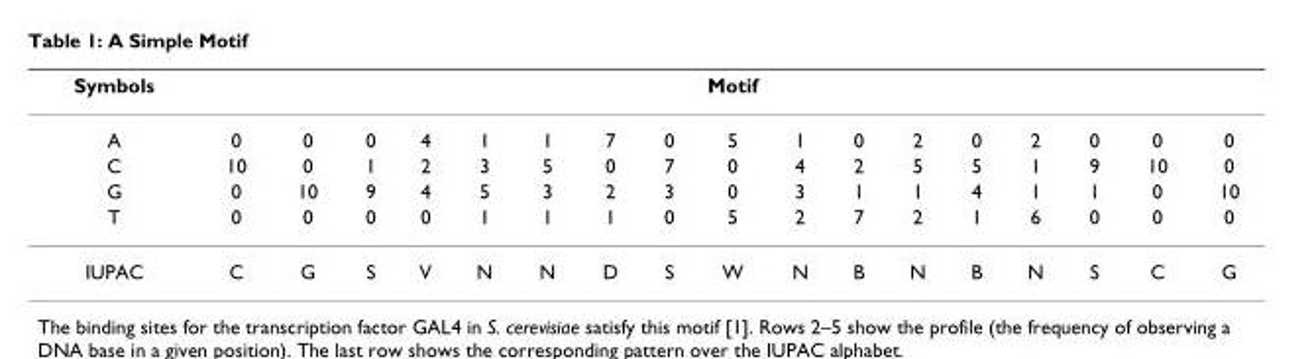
<table><thead><tr><td rowspan="2">Symbols A</td><td colspan="17">Motif</td></tr><tr><td>0</td><td>0</td><td>0</td><td>4</td><td>1</td><td>1</td><td>7</td><td>0</td><td>5</td><td>1</td><td>0</td><td>2</td><td>0</td><td>2</td><td>0</td><td>0</td><td>0</td></tr></thead><tbody><tr><td>C</td><td>10</td><td>0</td><td>1</td><td>2</td><td>3</td><td>5</td><td>0</td><td>7</td><td>0</td><td>4</td><td>2</td><td>5</td><td>5</td><td>1</td><td>9</td><td>10</td><td>0</td></tr><tr><td>G</td><td>0</td><td>10</td><td>9</td><td>4</td><td>5</td><td>3</td><td>2</td><td>3</td><td>0</td><td>3</td><td>1</td><td>1</td><td>4</td><td>1</td><td>1</td><td>0</td><td>10</td></tr><tr><td>T</td><td>0</td><td>0</td><td>0</td><td>0</td><td>1</td><td>1</td><td>1</td><td>0</td><td>5</td><td>2</td><td>7</td><td>2</td><td>1</td><td>6</td><td>0</td><td>0</td><td>0</td></tr><tr><td>IUPAC</td><td>C</td><td>G</td><td>S</td><td>V</td><td>N</td><td>N</td><td>D</td><td>S</td><td>W</td><td>N</td><td>B</td><td>N</td><td>B</td><td>N</td><td>S</td><td>C</td><td>G</td></tr></tbody></table>